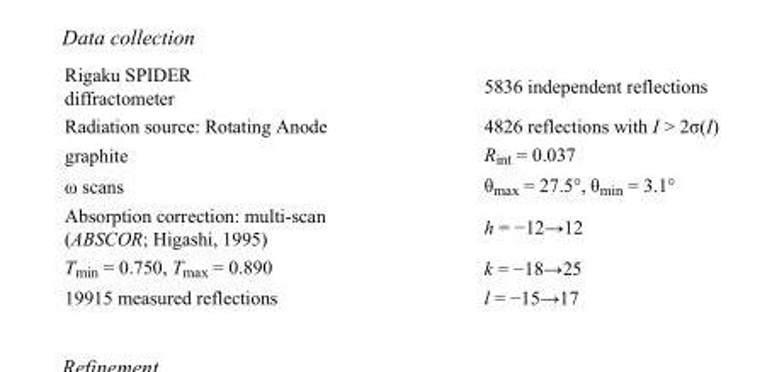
<table><tbody><tr><td>Rigaku SPIDER diffractometer</td><td>5836 independent reflections</td></tr><tr><td>Radiation source: Rotating Anode</td><td>4826 reflections with I &gt; 2σ(I)</td></tr><tr><td>graphite</td><td>R<sub>int</sub> = 0.037</td></tr><tr><td>ω scans</td><td>θ<sub>max</sub> = 27.5°, θ<sub>min</sub> = 3.1°</td></tr><tr><td>Absorption correction: multi-scan (ABSCOR; Higashi, 1995)</td><td>h = −12→12</td></tr><tr><td>T<sub>min</sub> = 0.750, T<sub>max</sub> = 0.890</td><td>k = −18→25</td></tr><tr><td>19915 measured reflections</td><td>l = −15→17</td></tr></tbody></table>